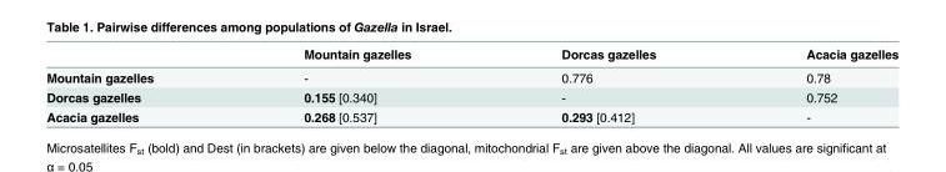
<table><thead><tr><td></td><td>Mountain gazelles</td><td>Dorcas gazelles</td><td>Acacia gazelles</td></tr></thead><tbody><tr><td>Mountain gazelles</td><td>-</td><td>0.776</td><td>0.78</td></tr><tr><td>Dorcas gazelles</td><td>0.155 [0.340]</td><td>-</td><td>0.752</td></tr><tr><td>Acacia gazelles</td><td>0.268 [0.537]</td><td>0.293 [0.412]</td><td>-</td></tr></tbody></table>